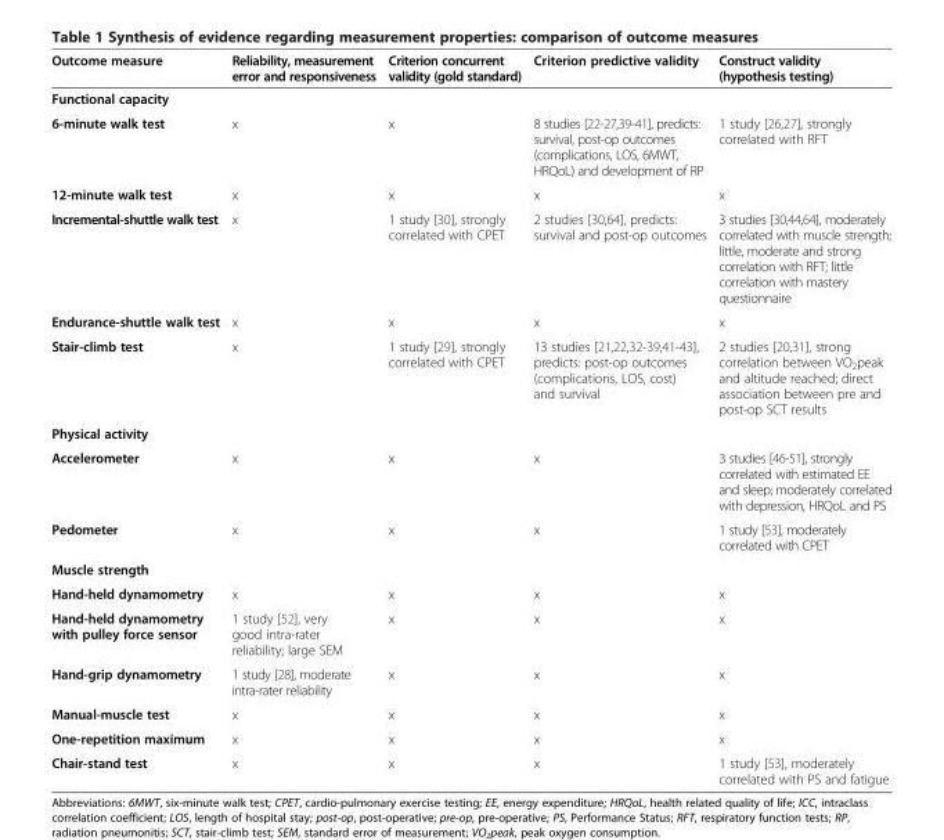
<table><thead><tr><td>Outcome measure</td><td>Reliability, measurement error and responsiveness</td><td>Criterion concurrent validity (gold standard)</td><td>Criterion predictive validity</td><td>Construct validity (hypothesis testing)</td></tr></thead><tbody><tr><td colspan="5">Functional capacity</td></tr><tr><td>6-minute walk test</td><td>x</td><td>x</td><td>8 studies [22-27,39-41], predicts: survival, post-op outcomes (complications, LOS, 6MWT, HRQoL) and development of RP</td><td>1 study [26,27], strongly correlated with RFT</td></tr><tr><td>12-minute walk test</td><td>x</td><td>x</td><td>x</td><td>x</td></tr><tr><td>Incremental-shuttle walk test</td><td>x</td><td>1 study [30], strongly correlated with CPET</td><td>2 studies [30,64], predicts: survival and post-op outcomes</td><td>3 studies [30,44,64], moderately correlated with muscle strength; little, moderate and strong correlation with RFT; little correlation with mastery questionnaire</td></tr><tr><td>Endurance-shuttle walk test</td><td>x</td><td>x</td><td>x</td><td>x</td></tr><tr><td>Stair-climb test</td><td>x</td><td>1 study [29], strongly correlated with CPET</td><td>13 studies [21,22,32-39,41-43], predicts: post-op outcomes (complications, LOS, cost) and survival</td><td>2 studies [20,31], strong correlation between VO<sub>2</sub>peak and altitude reached; direct association between pre and post-op SCT results</td></tr><tr><td colspan="5">Physical activity</td></tr><tr><td>Accelerometer</td><td>x</td><td>x</td><td>x</td><td>3 studies [46-51], strongly correlated with estimated EE and sleep; moderately correlated with depression, HRQoL and PS</td></tr><tr><td>Pedometer</td><td>x</td><td>x</td><td>x</td><td>1 study [53], moderately correlated with CPET</td></tr><tr><td colspan="5">Muscle strength</td></tr><tr><td>Hand-held dynamometry</td><td>x</td><td>x</td><td>x</td><td>x</td></tr><tr><td>Hand-held dynamometry with pulley force sensor</td><td>1 study [52], very good intra-rater reliability; large SEM</td><td>x</td><td>x</td><td>x</td></tr><tr><td>Hand-grip dynamometry</td><td>1 study [28], moderate intra-rater reliability</td><td>x</td><td>x</td><td>x</td></tr><tr><td>Manual-muscle test</td><td>x</td><td>x</td><td>x</td><td>x</td></tr><tr><td>One-repetition maximum</td><td>x</td><td>x</td><td>x</td><td>x</td></tr><tr><td>Chair-stand test</td><td>x</td><td>x</td><td>x</td><td>1 study [53], moderately correlated with PS and fatigue</td></tr></tbody></table>